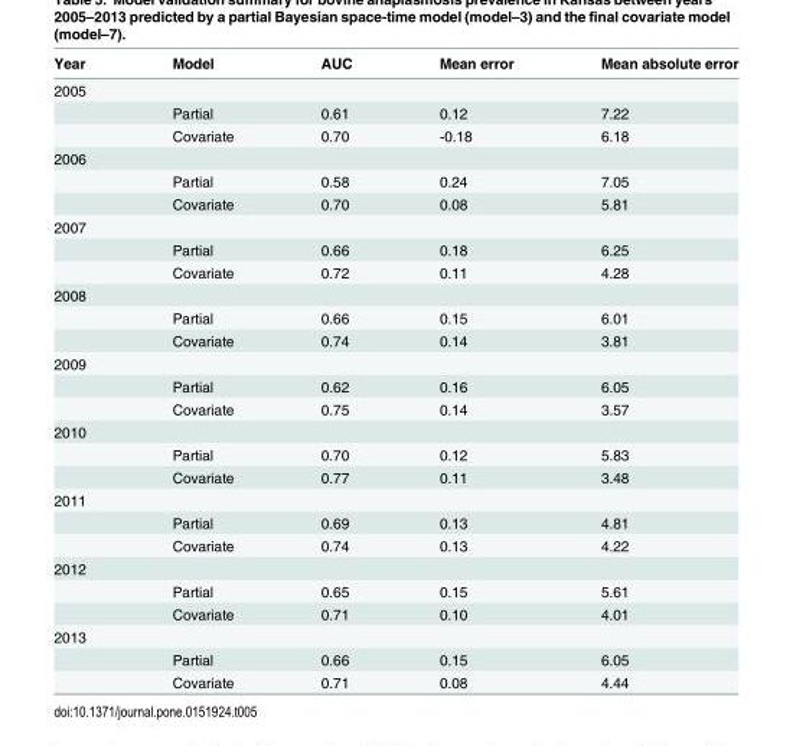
<table><thead><tr><td>Year</td><td>Model</td><td>AUC</td><td>Mean error</td><td>Mean absolute error</td></tr></thead><tbody><tr><td colspan="5">2005</td></tr><tr><td></td><td>Partial</td><td>0.61</td><td>0.12</td><td>7.22</td></tr><tr><td></td><td>Covariate</td><td>0.70</td><td>-0.18</td><td>6.18</td></tr><tr><td colspan="5">2006</td></tr><tr><td></td><td>Partial</td><td>0.58</td><td>0.24</td><td>7.05</td></tr><tr><td></td><td>Covariate</td><td>0.70</td><td>0.08</td><td>5.81</td></tr><tr><td colspan="5">2007</td></tr><tr><td></td><td>Partial</td><td>0.66</td><td>0.18</td><td>6.25</td></tr><tr><td></td><td>Covariate</td><td>0.72</td><td>0.11</td><td>4.28</td></tr><tr><td colspan="5">2008</td></tr><tr><td></td><td>Partial</td><td>0.66</td><td>0.15</td><td>6.01</td></tr><tr><td></td><td>Covariate</td><td>0.74</td><td>0.14</td><td>3.81</td></tr><tr><td colspan="5">2009</td></tr><tr><td></td><td>Partial</td><td>0.62</td><td>0.16</td><td>6.05</td></tr><tr><td></td><td>Covariate</td><td>0.75</td><td>0.14</td><td>3.57</td></tr><tr><td colspan="5">2010</td></tr><tr><td></td><td>Partial</td><td>0.70</td><td>0.12</td><td>5.83</td></tr><tr><td></td><td>Covariate</td><td>0.77</td><td>0.11</td><td>3.48</td></tr><tr><td colspan="5">2011</td></tr><tr><td></td><td>Partial</td><td>0.69</td><td>0.13</td><td>4.81</td></tr><tr><td></td><td>Covariate</td><td>0.74</td><td>0.13</td><td>4.22</td></tr><tr><td colspan="5">2012</td></tr><tr><td></td><td>Partial</td><td>0.65</td><td>0.15</td><td>5.61</td></tr><tr><td></td><td>Covariate</td><td>0.71</td><td>0.10</td><td>4.01</td></tr><tr><td colspan="5">2013</td></tr><tr><td></td><td>Partial</td><td>0.66</td><td>0.15</td><td>6.05</td></tr><tr><td></td><td>Covariate</td><td>0.71</td><td>0.08</td><td>4.44</td></tr></tbody></table>